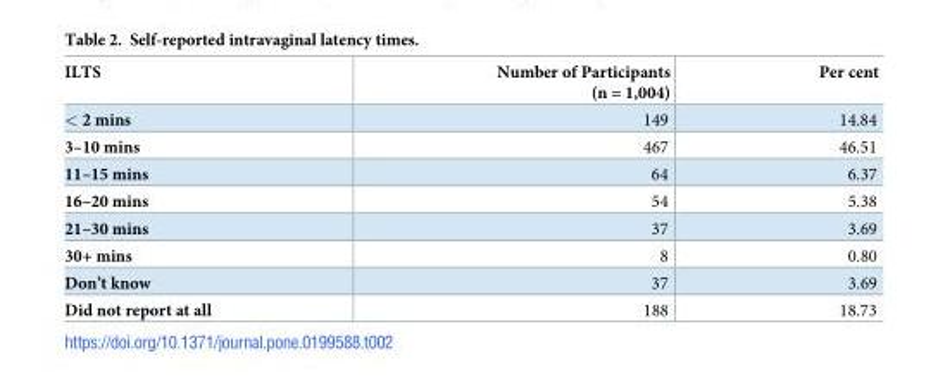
<table><thead><tr><td>ILTS</td><td>Number of Participants (n = 1,004)</td><td>Per cent</td></tr></thead><tbody><tr><td>&lt; 2 mins</td><td>149</td><td>14.84</td></tr><tr><td>3–10 mins</td><td>467</td><td>46.51</td></tr><tr><td>11–15 mins</td><td>64</td><td>6.37</td></tr><tr><td>16–20 mins</td><td>54</td><td>5.38</td></tr><tr><td>21–30 mins</td><td>37</td><td>3.69</td></tr><tr><td>30+ mins</td><td>8</td><td>0.80</td></tr><tr><td>Don’t know</td><td>37</td><td>3.69</td></tr><tr><td>Did not report at all</td><td>188</td><td>18.73</td></tr></tbody></table>